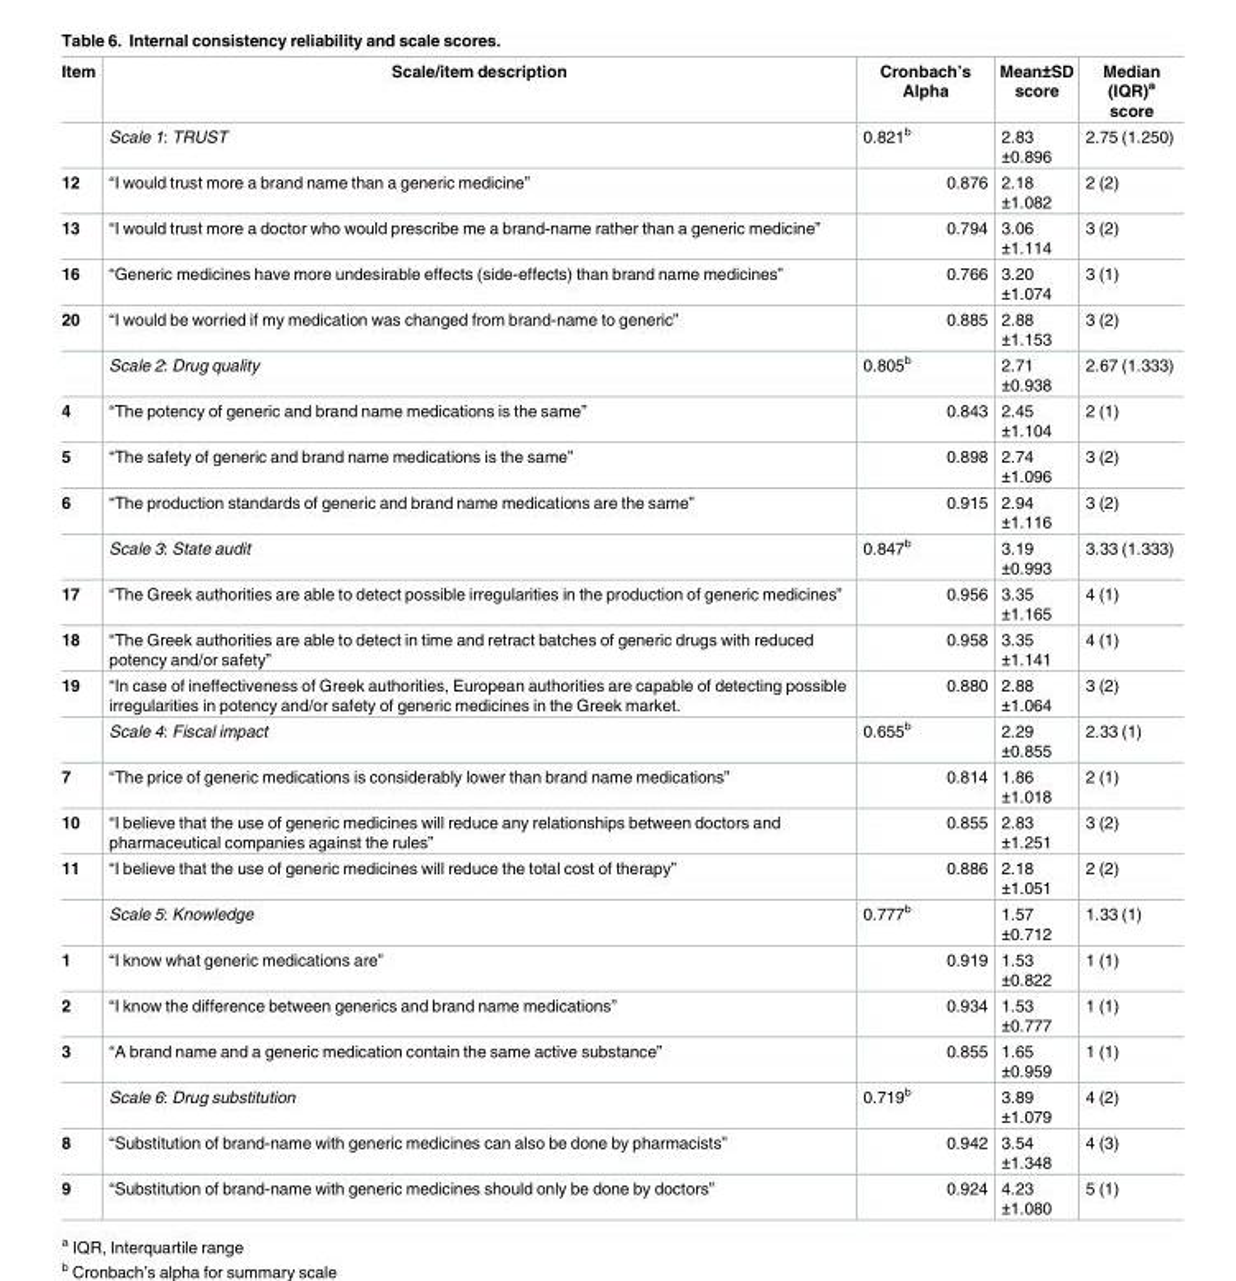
<table><thead><tr><td>Item</td><td>Scale/item description</td><td>Cronbach’s Alpha</td><td>Mean±SD score</td><td>Median (IQR)<sup>a</sup> score</td></tr></thead><tbody><tr><td></td><td>Scale 1: TRUST</td><td>0.821<sup>b</sup></td><td>2.83 ±0.896</td><td>2.75 (1.250)</td></tr><tr><td>12</td><td>“I would trust more a brand name than a generic medicine”</td><td>0.876</td><td>2.18 ±1.082</td><td>2 (2)</td></tr><tr><td>13</td><td>“I would trust more a doctor who would prescribe me a brand-name rather than a generic medicine”</td><td>0.794</td><td>3.06 ±1.114</td><td>3 (2)</td></tr><tr><td>16</td><td>“Generic medicines have more undesirable effects (side-effects) than brand name medicines”</td><td>0.766</td><td>3.20 ±1.074</td><td>3 (1)</td></tr><tr><td rowspan="2">20</td><td>“I would be worried if my medication was changed from brand-name to generic”</td><td>0.885</td><td>2.88 ±1.153</td><td>3 (2)</td></tr><tr><td>Scale 2: Drug quality</td><td>0.805<sup>b</sup></td><td>2.71 ±0.938</td><td>2.67 (1.333)</td></tr><tr><td>4</td><td>“The potency of generic and brand name medications is the same”</td><td>0.843</td><td>2.45 ±1.104</td><td>2 (1)</td></tr><tr><td>5</td><td>“The safety of generic and brand name medications is the same”</td><td>0.898</td><td>2.74 ±1.096</td><td>3 (2)</td></tr><tr><td rowspan="2">6</td><td>“The production standards of generic and brand name medications are the same”</td><td>0.915</td><td>2.94 ±1.116</td><td>3 (2)</td></tr><tr><td>Scale 3: State audit</td><td>0.847<sup>b</sup></td><td>3.19 ±0.993</td><td>3.33 (1.333)</td></tr><tr><td>17</td><td>“The Greek authorities are able to detect possible irregularities in the production of generic medicines”</td><td>0.956</td><td>3.35 ±1.165</td><td>4 (1)</td></tr><tr><td>18</td><td>“The Greek authorities are able to detect in time and retract batches of generic drugs with reduced potency and/or safety”</td><td>0.958</td><td>3.35 ±1.141</td><td>4 (1)</td></tr><tr><td rowspan="2">19</td><td>“In case of ineffectiveness of Greek authorities, European authorities are capable of detecting possible irregularities in potency and/or safety of generic medicines in the Greek market.</td><td>0.880</td><td>2.88 ±1.064</td><td>3 (2)</td></tr><tr><td>Scale 4: Fiscal impact</td><td>0.655<sup>b</sup></td><td>2.29 ±0.855</td><td>2.33 (1)</td></tr><tr><td>7</td><td>“The price of generic medications is considerably lower than brand name medications”</td><td>0.814</td><td>1.86 ±1.018</td><td>2 (1)</td></tr><tr><td>10</td><td>“I believe that the use of generic medicines will reduce any relationships between doctors and pharmaceutical companies against the rules”</td><td>0.855</td><td>2.83 ±1.251</td><td>3 (2)</td></tr><tr><td rowspan="2">11</td><td>“I believe that the use of generic medicines will reduce the total cost of therapy”</td><td>0.886</td><td>2.18 ±1.051</td><td>2 (2)</td></tr><tr><td>Scale 5: Knowledge</td><td>0.777<sup>b</sup></td><td>1.57 ±0.712</td><td>1.33 (1)</td></tr><tr><td>1</td><td>“I know what generic medications are”</td><td>0.919</td><td>1.53 ±0.822</td><td>1 (1)</td></tr><tr><td>2</td><td>“I know the difference between generics and brand name medications”</td><td>0.934</td><td>1.53 ±0.777</td><td>1 (1)</td></tr><tr><td rowspan="2">3</td><td>“A brand name and a generic medication contain the same active substance”</td><td>0.855</td><td>1.65 ±0.959</td><td>1 (1)</td></tr><tr><td>Scale 6: Drug substitution</td><td>0.719<sup>b</sup></td><td>3.89 ±1.079</td><td>4 (2)</td></tr><tr><td>8</td><td>“Substitution of brand-name with generic medicines can also be done by pharmacists”</td><td>0.942</td><td>3.54 ±1.348</td><td>4 (3)</td></tr><tr><td>9</td><td>“Substitution of brand-name with generic medicines should only be done by doctors”</td><td>0.924</td><td>4.23 ±1.080</td><td>5 (1)</td></tr></tbody></table>